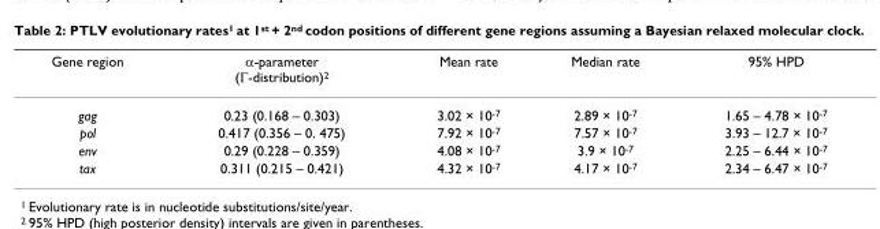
<table><thead><tr><td>Gene region</td><td>α-parameter (Γ-distribution)<sup>2</sup></td><td>Mean rate</td><td>Median rate</td><td>95% HPD</td></tr></thead><tbody><tr><td>gag</td><td>0.23 (0.168 – 0.303)</td><td>3.02 × 10<sup>-7</sup></td><td>2.89 × 10<sup>-7</sup></td><td>1.65 – 4.78 × 10<sup>-7</sup></td></tr><tr><td>pol</td><td>0.417 (0.356 – 0. 475)</td><td>7.92 × 10<sup>-7</sup></td><td>7.57 × 10<sup>-7</sup></td><td>3.93 – 12.7 × 10<sup>-7</sup></td></tr><tr><td>env</td><td>0.29 (0.228 – 0.359)</td><td>4.08 × 10<sup>-7</sup></td><td>3.9 × 10<sup>-7</sup></td><td>2.25 – 6.44 × 10<sup>-7</sup></td></tr><tr><td>tax</td><td>0.311 (0.215 – 0.421)</td><td>4.32 × 10<sup>-7</sup></td><td>4.17 × 10<sup>-7</sup></td><td>2.34 – 6.47 × 10<sup>-7</sup></td></tr></tbody></table>